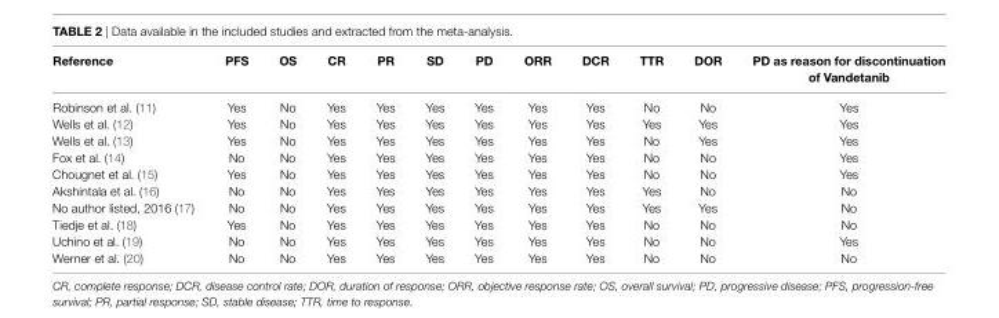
<table><thead><tr><td>Reference</td><td>PFS</td><td>OS</td><td>cR</td><td>PR</td><td>SD</td><td>PD</td><td>ORR</td><td>DcR</td><td>ttR</td><td>DOR</td><td>PD as reason for discontinuation of vandetanib</td></tr></thead><tbody><tr><td>Robinson et al. (11)</td><td>Yes</td><td>No</td><td>Yes</td><td>Yes</td><td>Yes</td><td>Yes</td><td>Yes</td><td>Yes</td><td>No</td><td>No</td><td>Yes</td></tr><tr><td>Wells et al. (12)</td><td>Yes</td><td>No</td><td>Yes</td><td>Yes</td><td>Yes</td><td>Yes</td><td>Yes</td><td>Yes</td><td>Yes</td><td>Yes</td><td>Yes</td></tr><tr><td>Wells et al. (13)</td><td>Yes</td><td>No</td><td>Yes</td><td>Yes</td><td>Yes</td><td>Yes</td><td>Yes</td><td>Yes</td><td>No</td><td>Yes</td><td>Yes</td></tr><tr><td>Fox et al. (14)</td><td>No</td><td>No</td><td>Yes</td><td>Yes</td><td>Yes</td><td>Yes</td><td>Yes</td><td>Yes</td><td>No</td><td>No</td><td>Yes</td></tr><tr><td>Chougnet et al. (15)</td><td>Yes</td><td>No</td><td>Yes</td><td>Yes</td><td>Yes</td><td>Yes</td><td>Yes</td><td>Yes</td><td>No</td><td>No</td><td>Yes</td></tr><tr><td>Akshintala et al. (16)</td><td>No</td><td>No</td><td>Yes</td><td>Yes</td><td>Yes</td><td>Yes</td><td>Yes</td><td>Yes</td><td>Yes</td><td>No</td><td>No</td></tr><tr><td>No author listed, 2016 (17)</td><td>No</td><td>No</td><td>Yes</td><td>Yes</td><td>Yes</td><td>Yes</td><td>Yes</td><td>Yes</td><td>Yes</td><td>Yes</td><td>No</td></tr><tr><td>Tiedje et al. (18)</td><td>Yes</td><td>No</td><td>Yes</td><td>Yes</td><td>Yes</td><td>Yes</td><td>Yes</td><td>Yes</td><td>No</td><td>No</td><td>No</td></tr><tr><td>Uchino et al. (19)</td><td>No</td><td>No</td><td>Yes</td><td>Yes</td><td>Yes</td><td>Yes</td><td>Yes</td><td>Yes</td><td>No</td><td>No</td><td>Yes</td></tr><tr><td>Werner et al. (20)</td><td>No</td><td>No</td><td>Yes</td><td>Yes</td><td>Yes</td><td>Yes</td><td>Yes</td><td>Yes</td><td>No</td><td>No</td><td>No</td></tr></tbody></table>